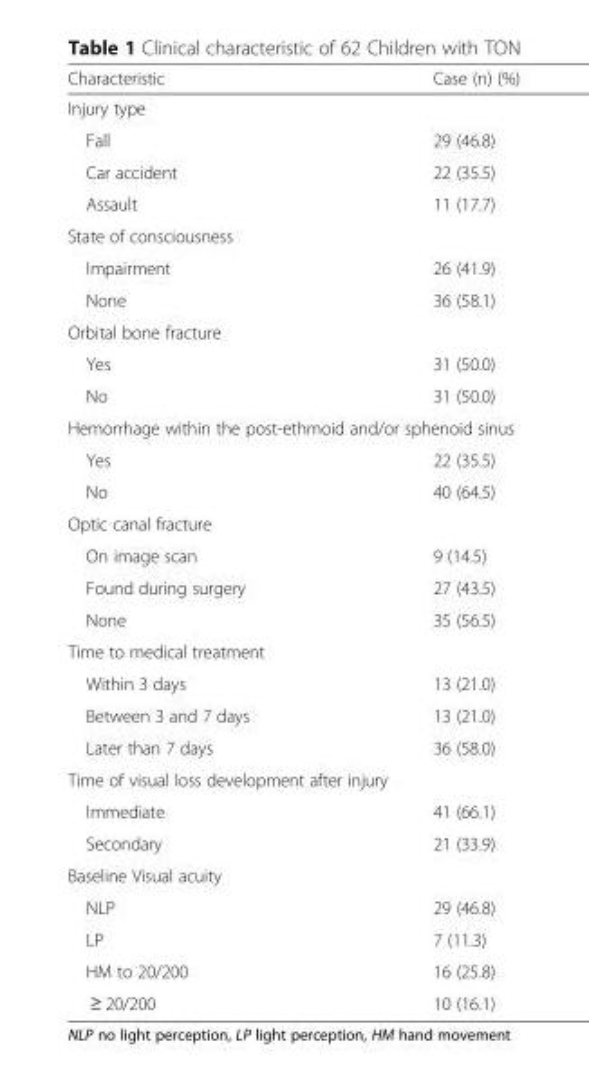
<table><thead><tr><td>Characteristic</td><td>Case (n) (%)</td></tr></thead><tbody><tr><td colspan="2">Injury type</td></tr><tr><td>Fall</td><td>29 (46.8)</td></tr><tr><td>Car accident</td><td>22 (35.5)</td></tr><tr><td>Assault</td><td>11 (17.7)</td></tr><tr><td colspan="2">State of consciousness</td></tr><tr><td>Impairment</td><td>26 (41.9)</td></tr><tr><td>None</td><td>36 (58.1)</td></tr><tr><td colspan="2">Orbital bone fracture</td></tr><tr><td>Yes</td><td>31 (50.0)</td></tr><tr><td>No</td><td>31 (50.0)</td></tr><tr><td colspan="2">Hemorrhage within the post-ethmoid and/or sphenoid sinus</td></tr><tr><td>Yes</td><td>22 (35.5)</td></tr><tr><td>No</td><td>40 (64.5)</td></tr><tr><td colspan="2">Optic canal fracture</td></tr><tr><td>On image scan</td><td>9 (14.5)</td></tr><tr><td>Found during surgery</td><td>27 (43.5)</td></tr><tr><td>None</td><td>35 (56.5)</td></tr><tr><td colspan="2">Time to medical treatment</td></tr><tr><td>Within 3 days</td><td>13 (21.0)</td></tr><tr><td>Between 3 and 7 days</td><td>13 (21.0)</td></tr><tr><td>Later than 7 days</td><td>36 (58.0)</td></tr><tr><td colspan="2">Time of visual loss development after injury</td></tr><tr><td>Immediate</td><td>41 (66.1)</td></tr><tr><td>Secondary</td><td>21 (33.9)</td></tr><tr><td colspan="2">Baseline Visual acuity</td></tr><tr><td>NLP</td><td>29 (46.8)</td></tr><tr><td>LP</td><td>7 (11.3)</td></tr><tr><td>HM to 20/200</td><td>16 (25.8)</td></tr><tr><td>≥ 20/200</td><td>10 (16.1)</td></tr></tbody></table>